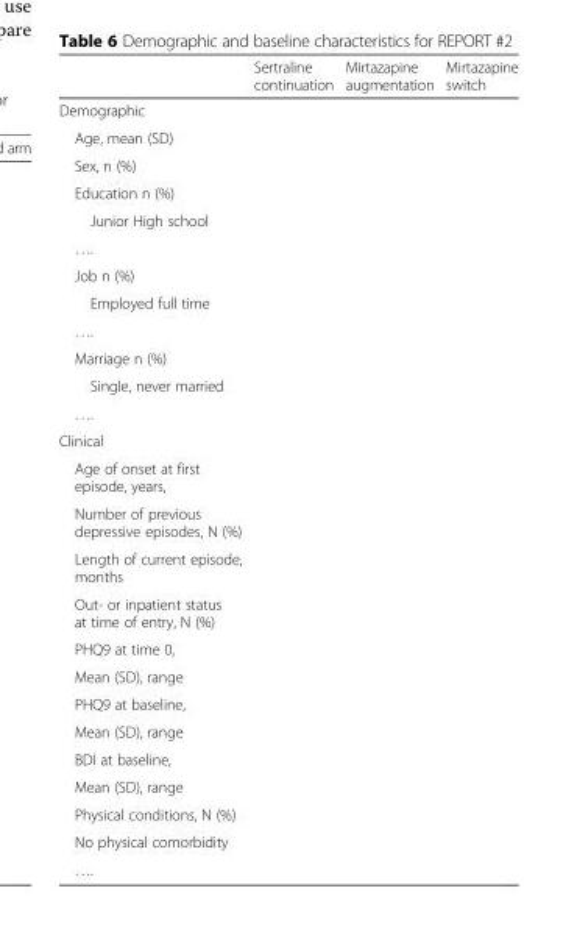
<table><thead><tr><td></td><td>Sertraline continuation</td><td>Mirtazapine augmentation</td><td>Mirtazapine switch</td></tr></thead><tbody><tr><td colspan="4">Demographic</td></tr><tr><td colspan="4">Age, mean (SD)</td></tr><tr><td colspan="4">Sex, n (%)</td></tr><tr><td colspan="4">Education n (%)</td></tr><tr><td colspan="4">Junior High school</td></tr><tr><td colspan="4">….</td></tr><tr><td colspan="4">Job n (%)</td></tr><tr><td colspan="4">Employed full time</td></tr><tr><td colspan="4">….</td></tr><tr><td colspan="4">Marriage n (%)</td></tr><tr><td colspan="4">Single, never married</td></tr><tr><td colspan="4">….</td></tr><tr><td colspan="4">Clinical</td></tr><tr><td colspan="4">Age of onset at first episode, years,</td></tr><tr><td colspan="4">Number of previous depressive episodes, N (%)</td></tr><tr><td colspan="4">Length of current episode, months</td></tr><tr><td colspan="4">Out- or inpatient status at time of entry, N (%)</td></tr><tr><td colspan="4">PHQ9 at time 0,</td></tr><tr><td colspan="4">Mean (SD), range</td></tr><tr><td colspan="4">PHQ9 at baseline,</td></tr><tr><td colspan="4">Mean (SD), range</td></tr><tr><td colspan="4">BDI at baseline,</td></tr><tr><td colspan="4">Mean (SD), range</td></tr><tr><td colspan="4">Physical conditions, N (%)</td></tr><tr><td colspan="4">No physical comorbidity</td></tr><tr><td>….</td><td></td><td></td><td></td></tr></tbody></table>